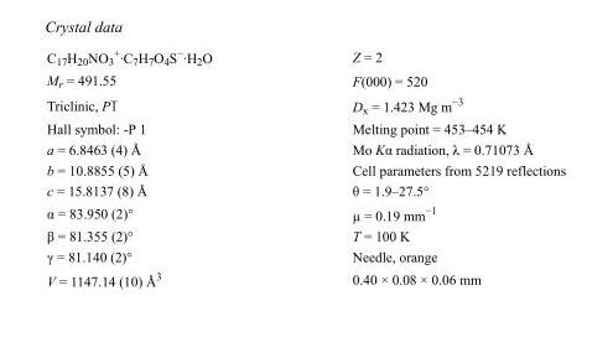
<table><tbody><tr><td>C<sub>17</sub>H<sub>20</sub>NO<sub>3</sub> <sup>+</sup>·C<sub>7</sub>H<sub>7</sub>O<sub>4</sub>S<sup>−</sup>·H<sub>2</sub>O</td><td>Z = 2</td></tr><tr><td>M<sub>r</sub> = 491.55</td><td>F(000) = 520</td></tr><tr><td>Triclinic, P1</td><td>D<sub>x</sub> = 1.423 Mg m<sup>−3</sup></td></tr><tr><td>Hall symbol: -P 1</td><td>Melting point = 453–454 K</td></tr><tr><td>a = 6.8463 (4) Å</td><td>Mo Kα radiation, λ = 0.71073 Å</td></tr><tr><td>b = 10.8855 (5) Å</td><td>Cell parameters from 5219 reflections</td></tr><tr><td>c = 15.8137 (8) Å</td><td>θ = 1.9–27.5°</td></tr><tr><td>α = 83.950 (2)°</td><td>µ = 0.19 mm<sup>−1</sup></td></tr><tr><td>β = 81.355 (2)°</td><td>T = 100 K</td></tr><tr><td>γ = 81.140 (2)°</td><td>Needle, orange</td></tr><tr><td>V = 1147.14 (10) Å<sup>3</sup></td><td>0.40 × 0.08 × 0.06 mm</td></tr></tbody></table>